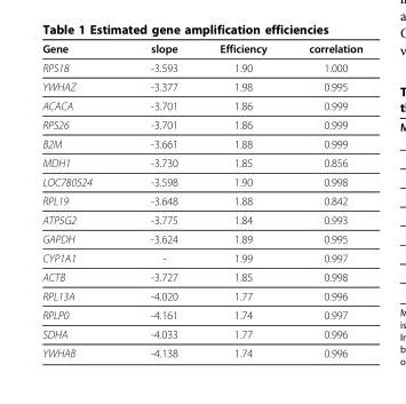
<table><thead><tr><td>Gene</td><td>slope</td><td>Efficiency</td><td>correlation</td></tr></thead><tbody><tr><td>RPS18</td><td>-3.593</td><td>1.90</td><td>1.000</td></tr><tr><td>YWHAZ</td><td>-3.377</td><td>1.98</td><td>0.995</td></tr><tr><td>ACACA</td><td>-3.701</td><td>1.86</td><td>0.999</td></tr><tr><td>RPS26</td><td>-3.701</td><td>1.86</td><td>0.999</td></tr><tr><td>B2M</td><td>-3.661</td><td>1.88</td><td>0.999</td></tr><tr><td>MDH1</td><td>-3.730</td><td>1.85</td><td>0.856</td></tr><tr><td>LOC780524</td><td>-3.598</td><td>1.90</td><td>0.998</td></tr><tr><td>RPL19</td><td>-3.648</td><td>1.88</td><td>0.842</td></tr><tr><td>ATP5G2</td><td>-3.775</td><td>1.84</td><td>0.993</td></tr><tr><td>GAPDH</td><td>-3.624</td><td>1.89</td><td>0.995</td></tr><tr><td>CYP1A1</td><td>-</td><td>1.99</td><td>0.997</td></tr><tr><td>ACTB</td><td>-3.727</td><td>1.85</td><td>0.998</td></tr><tr><td>RPL13A</td><td>-4.020</td><td>1.77</td><td>0.996</td></tr><tr><td>RPLP0</td><td>-4.161</td><td>1.74</td><td>0.997</td></tr><tr><td>SDHA</td><td>-4.033</td><td>1.77</td><td>0.996</td></tr><tr><td>YWHAB</td><td>-4.138</td><td>1.74</td><td>0.996</td></tr></tbody></table>